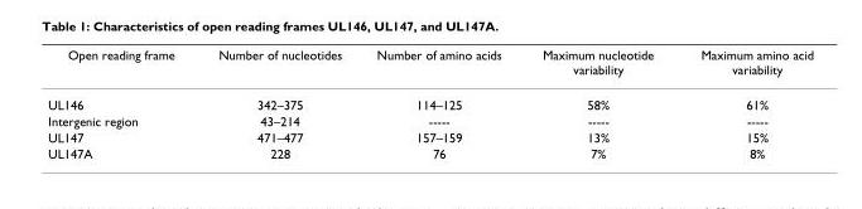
<table><thead><tr><td>Open reading frame</td><td>Number of nucleotides</td><td>Number of amino acids</td><td>Maximum nucleotide variability</td><td>Maximum amino acid variability</td></tr></thead><tbody><tr><td>UL146</td><td>342–375</td><td>114–125</td><td>58%</td><td>61%</td></tr><tr><td>Intergenic region</td><td>43–214</td><td>-----</td><td>-----</td><td>-----</td></tr><tr><td>UL147</td><td>471–477</td><td>157–159</td><td>13%</td><td>15%</td></tr><tr><td>UL147A</td><td>228</td><td>76</td><td>7%</td><td>8%</td></tr></tbody></table>